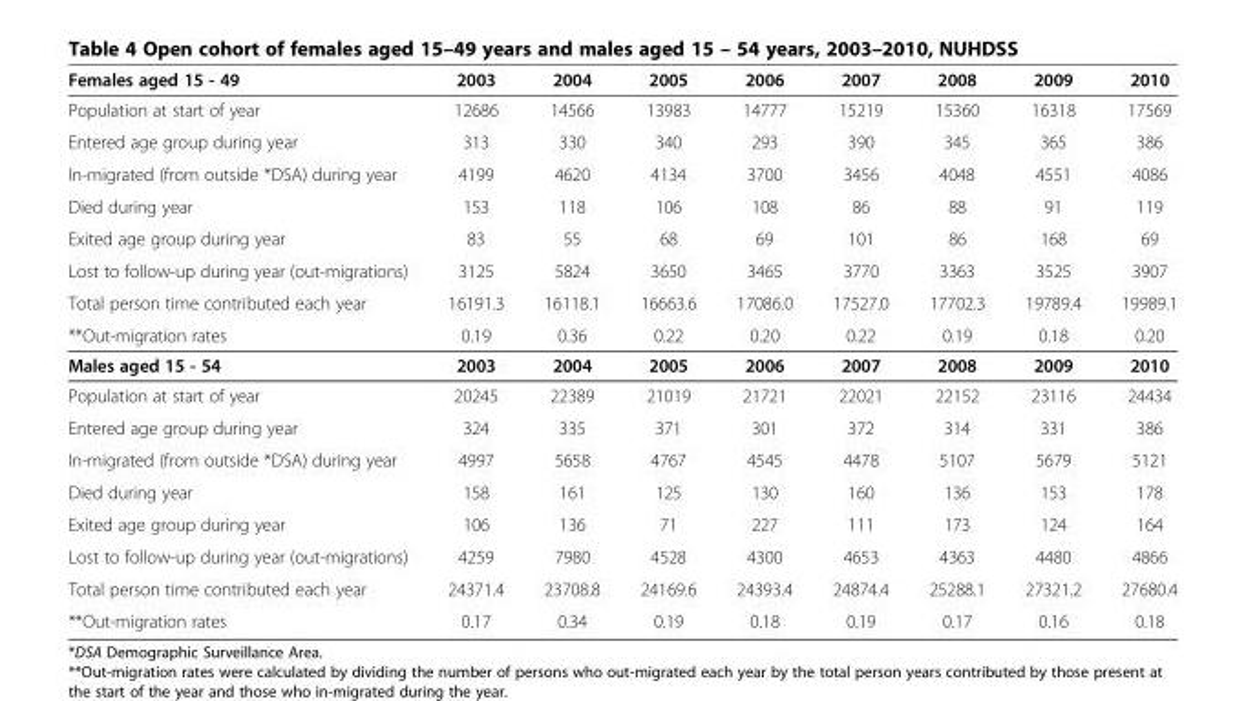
<table><thead><tr><td>Females aged 15 - 49</td><td>2003</td><td>2004</td><td>2005</td><td>2006</td><td>2007</td><td>2008</td><td>2009</td><td>2010</td></tr></thead><tbody><tr><td>Population at start of year</td><td>12686</td><td>14566</td><td>13983</td><td>14777</td><td>15219</td><td>15360</td><td>16318</td><td>17569</td></tr><tr><td>Entered age group during year</td><td>313</td><td>330</td><td>340</td><td>293</td><td>390</td><td>345</td><td>365</td><td>386</td></tr><tr><td>In-migrated (from outside *DSA) during year</td><td>4199</td><td>4620</td><td>4134</td><td>3700</td><td>3456</td><td>4048</td><td>4551</td><td>4086</td></tr><tr><td>Died during year</td><td>153</td><td>118</td><td>106</td><td>108</td><td>86</td><td>88</td><td>91</td><td>119</td></tr><tr><td>Exited age group during year</td><td>83</td><td>55</td><td>68</td><td>69</td><td>101</td><td>86</td><td>168</td><td>69</td></tr><tr><td>Lost to follow-up during year (out-migrations)</td><td>3125</td><td>5824</td><td>3650</td><td>3465</td><td>3770</td><td>3363</td><td>3525</td><td>3907</td></tr><tr><td>Total person time contributed each year</td><td>16191.3</td><td>16118.1</td><td>16663.6</td><td>17086.0</td><td>17527.0</td><td>17702.3</td><td>19789.4</td><td>19989.1</td></tr><tr><td>**Out-migration rates</td><td>0.19</td><td>0.36</td><td>0.22</td><td>0.20</td><td>0.22</td><td>0.19</td><td>0.18</td><td>0.20</td></tr><tr><td>Males aged 15 - 54</td><td>2003</td><td>2004</td><td>2005</td><td>2006</td><td>2007</td><td>2008</td><td>2009</td><td>2010</td></tr><tr><td>Population at start of year</td><td>20245</td><td>22389</td><td>21019</td><td>21721</td><td>22021</td><td>22152</td><td>23116</td><td>24434</td></tr><tr><td>Entered age group during year</td><td>324</td><td>335</td><td>371</td><td>301</td><td>372</td><td>314</td><td>331</td><td>386</td></tr><tr><td>In-migrated (from outside *DSA) during year</td><td>4997</td><td>5658</td><td>4767</td><td>4545</td><td>4478</td><td>5107</td><td>5679</td><td>5121</td></tr><tr><td>Died during year</td><td>158</td><td>161</td><td>125</td><td>130</td><td>160</td><td>136</td><td>153</td><td>178</td></tr><tr><td>Exited age group during year</td><td>106</td><td>136</td><td>71</td><td>227</td><td>111</td><td>173</td><td>124</td><td>164</td></tr><tr><td>Lost to follow-up during year (out-migrations)</td><td>4259</td><td>7980</td><td>4528</td><td>4300</td><td>4653</td><td>4363</td><td>4480</td><td>4866</td></tr><tr><td>Total person time contributed each year</td><td>24371.4</td><td>23708.8</td><td>24169.6</td><td>24393.4</td><td>24874.4</td><td>25288.1</td><td>27321.2</td><td>27680.4</td></tr><tr><td>**Out-migration rates</td><td>0.17</td><td>0.34</td><td>0.19</td><td>0.18</td><td>0.19</td><td>0.17</td><td>0.16</td><td>0.18</td></tr></tbody></table>